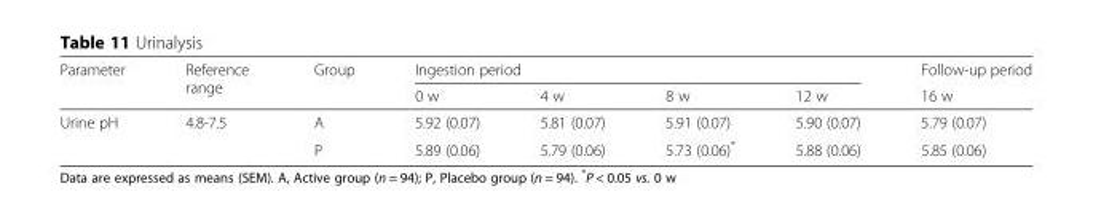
<table><thead><tr><td rowspan="2">Parameter</td><td rowspan="2">Reference range</td><td rowspan="2">Group</td><td colspan="4">Ingestion period</td><td rowspan="2">Follow-up period 16 w</td></tr><tr><td>0 w</td><td>4 w</td><td>8 w</td><td>12 w</td></tr></thead><tbody><tr><td rowspan="2">Urine pH</td><td rowspan="2">4.8-7.5</td><td>A</td><td>5.92 (0.07)</td><td>5.81 (0.07)</td><td>5.91 (0.07)</td><td>5.90 (0.07)</td><td>5.79 (0.07)</td></tr><tr><td>P</td><td>5.89 (0.06)</td><td>5.79 (0.06)</td><td>5.73 (0.06)*</td><td>5.88 (0.06)</td><td>5.85 (0.06)</td></tr></tbody></table>